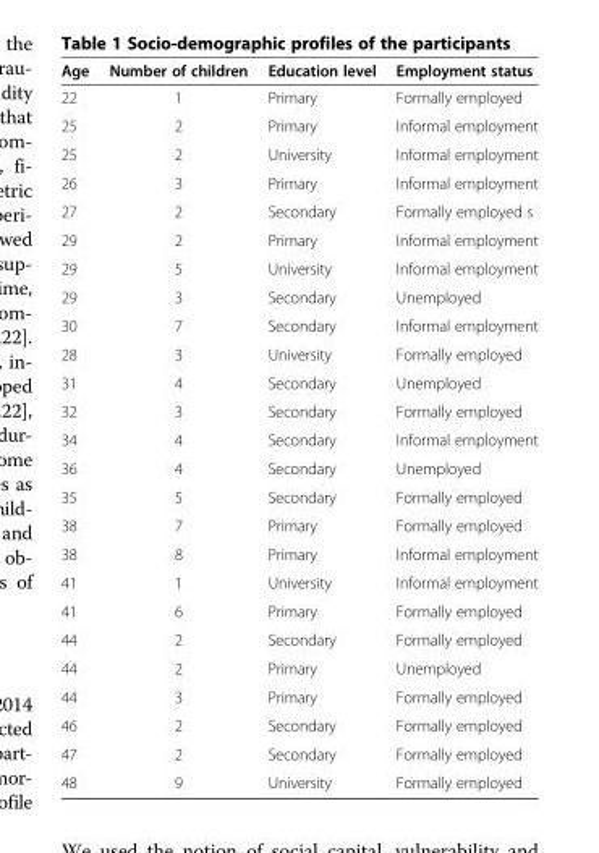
<table><thead><tr><td>Age</td><td>Number of children</td><td>Education level</td><td>Employment status</td></tr></thead><tbody><tr><td>22</td><td>1</td><td>Primary</td><td>Formally employed</td></tr><tr><td>25</td><td>2</td><td>Primary</td><td>Informal employment</td></tr><tr><td>25</td><td>2</td><td>University</td><td>Informal employment</td></tr><tr><td>26</td><td>3</td><td>Primary</td><td>Informal employment</td></tr><tr><td>27</td><td>2</td><td>Secondary</td><td>Formally employed s</td></tr><tr><td>29</td><td>2</td><td>Primary</td><td>Informal employment</td></tr><tr><td>29</td><td>5</td><td>University</td><td>Informal employment</td></tr><tr><td>29</td><td>3</td><td>Secondary</td><td>Unemployed</td></tr><tr><td>30</td><td>7</td><td>Secondary</td><td>Informal employment</td></tr><tr><td>28</td><td>3</td><td>University</td><td>Formally employed</td></tr><tr><td>31</td><td>4</td><td>Secondary</td><td>Unemployed</td></tr><tr><td>32</td><td>3</td><td>Secondary</td><td>Formally employed</td></tr><tr><td>34</td><td>4</td><td>Secondary</td><td>Informal employment</td></tr><tr><td>36</td><td>4</td><td>Secondary</td><td>Unemployed</td></tr><tr><td>35</td><td>5</td><td>Secondary</td><td>Formally employed</td></tr><tr><td>38</td><td>7</td><td>Primary</td><td>Formally employed</td></tr><tr><td>38</td><td>8</td><td>Primary</td><td>Informal employment</td></tr><tr><td>41</td><td>1</td><td>University</td><td>Informal employment</td></tr><tr><td>41</td><td>6</td><td>Primary</td><td>Formally employed</td></tr><tr><td>44</td><td>2</td><td>Secondary</td><td>Formally employed</td></tr><tr><td>44</td><td>2</td><td>Primary</td><td>Unemployed</td></tr><tr><td>44</td><td>3</td><td>Primary</td><td>Formally employed</td></tr><tr><td>46</td><td>2</td><td>Secondary</td><td>Formally employed</td></tr><tr><td>47</td><td>2</td><td>Secondary</td><td>Formally employed</td></tr><tr><td>48</td><td>9</td><td>University</td><td>Formally employed</td></tr></tbody></table>